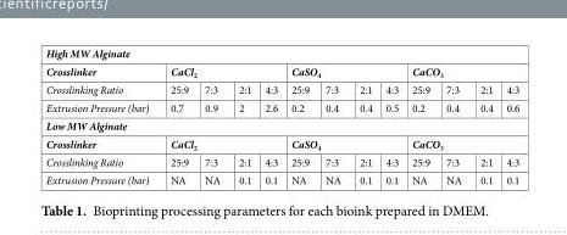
<table><thead><tr><td colspan="13">High MW Alginate</td></tr><tr><td rowspan="2">Crosslinker Crosslinking Ratio</td><td colspan="4">CaCl2</td><td colspan="4">CaSO<sub>4</sub></td><td colspan="4">CaCO3</td></tr><tr><td>25:9</td><td>7:3</td><td>2:1</td><td>4:3</td><td>25:9</td><td>7:3</td><td>2:1</td><td>4:3</td><td>25:9</td><td>7:3</td><td>2:1</td><td>4:3</td></tr></thead><tbody><tr><td>Extrusion Pressure (bar)</td><td>0.7</td><td>0.9</td><td>2</td><td>2.6</td><td>0.2</td><td>0.4</td><td>0.4</td><td>0.5</td><td>0.2</td><td>0.4</td><td>0.4</td><td>0.6</td></tr><tr><td colspan="13">Low MW Alginate</td></tr><tr><td>Crosslinker</td><td colspan="4">CaCl<sub>2</sub></td><td colspan="4">CaSO<sub>4</sub></td><td colspan="4">CaCO<sub>3</sub></td></tr><tr><td>Crosslinking Ratio</td><td>25:9</td><td>7:3</td><td>2:1</td><td>4:3</td><td>25:9</td><td>7:3</td><td>2:1</td><td>4:3</td><td>25:9</td><td>7:3</td><td>2:1</td><td>4:3</td></tr><tr><td>Extrusion Pressure (bar)</td><td>NA</td><td>NA</td><td>0.1</td><td>0.1</td><td>NA</td><td>NA</td><td>0.1</td><td>0.1</td><td>NA</td><td>NA</td><td>0.1</td><td>0.1</td></tr></tbody></table>